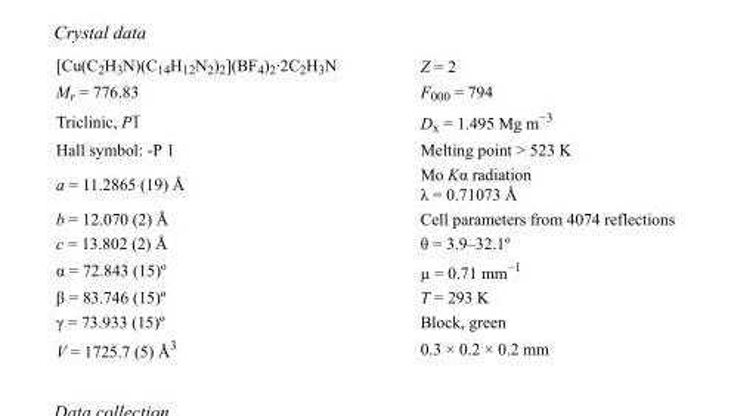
<table><tbody><tr><td>[Cu(C<sub>2</sub>H<sub>3</sub>N)(C<sub>14</sub>H<sub>12</sub>N<sub>2</sub>)<sub>2</sub>](BF<sub>4</sub>)<sub>2</sub>·2C<sub>2</sub>H<sub>3</sub>N</td><td>Z = 2</td></tr><tr><td>M<sub>r</sub> = 776.83</td><td>F000 = 794</td></tr><tr><td>Triclinic, P1</td><td>D<sub>x</sub> = 1.495 Mg m<sup>−3</sup></td></tr><tr><td>Hall symbol: -P 1</td><td>Melting point &gt; 523 K</td></tr><tr><td>a = 11.2865 (19) Å</td><td>Mo Kα radiation λ = 0.71073 Å</td></tr><tr><td>b = 12.070 (2) Å</td><td>Cell parameters from 4074 reflections</td></tr><tr><td>c = 13.802 (2) Å</td><td>θ = 3.9–32.1º</td></tr><tr><td>α = 72.843 (15)º</td><td>µ = 0.71 mm<sup>−1</sup></td></tr><tr><td>β = 83.746 (15)º</td><td>T = 293 K</td></tr><tr><td>γ = 73.933 (15)º</td><td>Block, green</td></tr><tr><td>V = 1725.7 (5) Å<sup>3</sup></td><td>0.3 × 0.2 × 0.2 mm</td></tr></tbody></table>